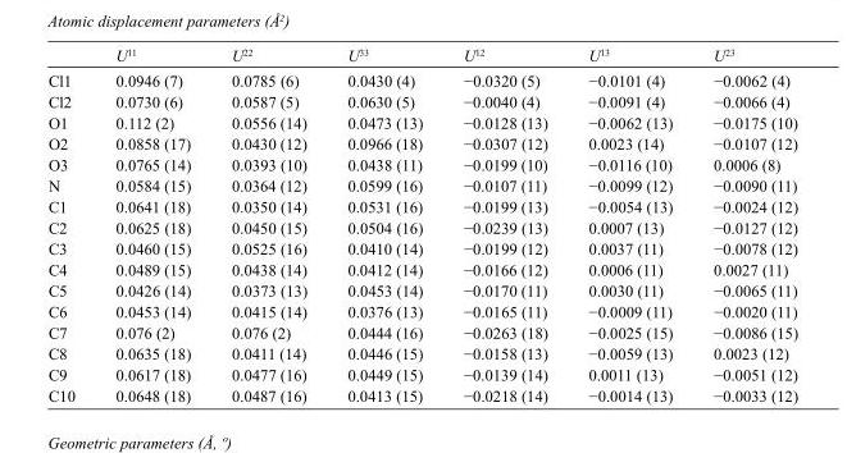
<table><thead><tr><td></td><td>U<sup>11</sup></td><td>U<sup>22</sup></td><td>U<sup>33</sup></td><td>U<sup>12</sup></td><td>U<sup>13</sup></td><td>U<sup>23</sup></td></tr></thead><tbody><tr><td>Cl1</td><td>0.0946 (7)</td><td>0.0785 (6)</td><td>0.0430 (4)</td><td>−0.0320 (5)</td><td>−0.0101 (4)</td><td>−0.0062 (4)</td></tr><tr><td>Cl2</td><td>0.0730 (6)</td><td>0.0587 (5)</td><td>0.0630 (5)</td><td>−0.0040 (4)</td><td>−0.0091 (4)</td><td>−0.0066 (4)</td></tr><tr><td>O1</td><td>0.112 (2)</td><td>0.0556 (14)</td><td>0.0473 (13)</td><td>−0.0128 (13)</td><td>−0.0062 (13)</td><td>−0.0175 (10)</td></tr><tr><td>O2</td><td>0.0858 (17)</td><td>0.0430 (12)</td><td>0.0966 (18)</td><td>−0.0307 (12)</td><td>0.0023 (14)</td><td>−0.0107 (12)</td></tr><tr><td>O3</td><td>0.0765 (14)</td><td>0.0393 (10)</td><td>0.0438 (11)</td><td>−0.0199 (10)</td><td>−0.0116 (10)</td><td>0.0006 (8)</td></tr><tr><td>N</td><td>0.0584 (15)</td><td>0.0364 (12)</td><td>0.0599 (16)</td><td>−0.0107 (11)</td><td>−0.0099 (12)</td><td>−0.0090 (11)</td></tr><tr><td>C1</td><td>0.0641 (18)</td><td>0.0350 (14)</td><td>0.0531 (16)</td><td>−0.0199 (13)</td><td>−0.0054 (13)</td><td>−0.0024 (12)</td></tr><tr><td>C2</td><td>0.0625 (18)</td><td>0.0450 (15)</td><td>0.0504 (16)</td><td>−0.0239 (13)</td><td>0.0007 (13)</td><td>−0.0127 (12)</td></tr><tr><td>C3</td><td>0.0460 (15)</td><td>0.0525 (16)</td><td>0.0410 (14)</td><td>−0.0199 (12)</td><td>0.0037 (11)</td><td>−0.0078 (12)</td></tr><tr><td>C4</td><td>0.0489 (15)</td><td>0.0438 (14)</td><td>0.0412 (14)</td><td>−0.0166 (12)</td><td>0.0006 (11)</td><td>0.0027 (11)</td></tr><tr><td>C5</td><td>0.0426 (14)</td><td>0.0373 (13)</td><td>0.0453 (14)</td><td>−0.0170 (11)</td><td>0.0030 (11)</td><td>−0.0065 (11)</td></tr><tr><td>C6</td><td>0.0453 (14)</td><td>0.0415 (14)</td><td>0.0376 (13)</td><td>−0.0165 (11)</td><td>−0.0009 (11)</td><td>−0.0020 (11)</td></tr><tr><td>C7</td><td>0.076 (2)</td><td>0.076 (2)</td><td>0.0444 (16)</td><td>−0.0263 (18)</td><td>−0.0025 (15)</td><td>−0.0086 (15)</td></tr><tr><td>C8</td><td>0.0635 (18)</td><td>0.0411 (14)</td><td>0.0446 (15)</td><td>−0.0158 (13)</td><td>−0.0059 (13)</td><td>0.0023 (12)</td></tr><tr><td>C9</td><td>0.0617 (18)</td><td>0.0477 (16)</td><td>0.0449 (15)</td><td>−0.0139 (14)</td><td>0.0011 (13)</td><td>−0.0051 (12)</td></tr><tr><td>C10</td><td>0.0648 (18)</td><td>0.0487 (16)</td><td>0.0413 (15)</td><td>−0.0218 (14)</td><td>−0.0014 (13)</td><td>−0.0033 (12)</td></tr></tbody></table>